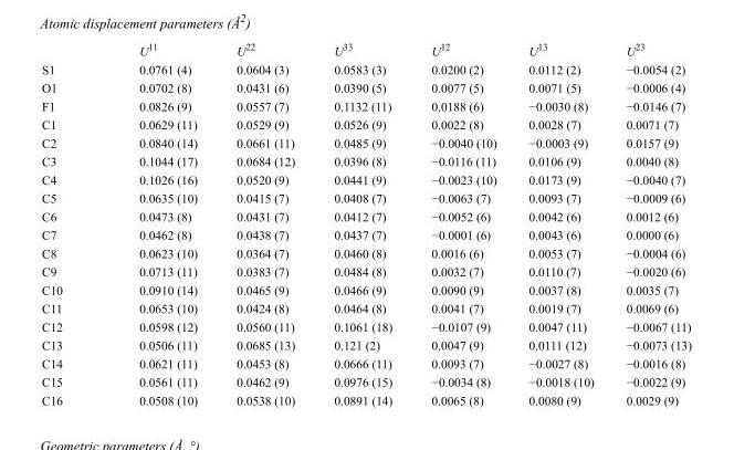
<table><thead><tr><td></td><td>U<sup>11</sup></td><td>U<sup>22</sup></td><td>U<sup>33</sup></td><td>U<sup>12</sup></td><td>U<sup>13</sup></td><td>U<sup>23</sup></td></tr></thead><tbody><tr><td>S1</td><td>0.0761 (4)</td><td>0.0604 (3)</td><td>0.0583 (3)</td><td>0.0200 (2)</td><td>0.0112 (2)</td><td>−0.0054 (2)</td></tr><tr><td>O1</td><td>0.0702 (8)</td><td>0.0431 (6)</td><td>0.0390 (5)</td><td>0.0077 (5)</td><td>0.0071 (5)</td><td>−0.0006 (4)</td></tr><tr><td>F1</td><td>0.0826 (9)</td><td>0.0557 (7)</td><td>0.1132 (11)</td><td>0.0188 (6)</td><td>−0.0030 (8)</td><td>−0.0146 (7)</td></tr><tr><td>C1</td><td>0.0629 (11)</td><td>0.0529 (9)</td><td>0.0526 (9)</td><td>0.0022 (8)</td><td>0.0028 (7)</td><td>0.0071 (7)</td></tr><tr><td>C2</td><td>0.0840 (14)</td><td>0.0661 (11)</td><td>0.0485 (9)</td><td>−0.0040 (10)</td><td>−0.0003 (9)</td><td>0.0157 (9)</td></tr><tr><td>C3</td><td>0.1044 (17)</td><td>0.0684 (12)</td><td>0.0396 (8)</td><td>−0.0116 (11)</td><td>0.0106 (9)</td><td>0.0040 (8)</td></tr><tr><td>C4</td><td>0.1026 (16)</td><td>0.0520 (9)</td><td>0.0441 (9)</td><td>−0.0023 (10)</td><td>0.0173 (9)</td><td>−0.0040 (7)</td></tr><tr><td>C5</td><td>0.0635 (10)</td><td>0.0415 (7)</td><td>0.0408 (7)</td><td>−0.0063 (7)</td><td>0.0093 (7)</td><td>−0.0009 (6)</td></tr><tr><td>C6</td><td>0.0473 (8)</td><td>0.0431 (7)</td><td>0.0412 (7)</td><td>−0.0052 (6)</td><td>0.0042 (6)</td><td>0.0012 (6)</td></tr><tr><td>C7</td><td>0.0462 (8)</td><td>0.0438 (7)</td><td>0.0437 (7)</td><td>−0.0001 (6)</td><td>0.0043 (6)</td><td>0.0000 (6)</td></tr><tr><td>C8</td><td>0.0623 (10)</td><td>0.0364 (7)</td><td>0.0460 (8)</td><td>0.0016 (6)</td><td>0.0053 (7)</td><td>−0.0004 (6)</td></tr><tr><td>C9</td><td>0.0713 (11)</td><td>0.0383 (7)</td><td>0.0484 (8)</td><td>0.0032 (7)</td><td>0.0110 (7)</td><td>−0.0020 (6)</td></tr><tr><td>C10</td><td>0.0910 (14)</td><td>0.0465 (9)</td><td>0.0466 (9)</td><td>0.0090 (9)</td><td>0.0037 (8)</td><td>0.0035 (7)</td></tr><tr><td>C11</td><td>0.0653 (10)</td><td>0.0424 (8)</td><td>0.0464 (8)</td><td>0.0041 (7)</td><td>0.0019 (7)</td><td>0.0069 (6)</td></tr><tr><td>C12</td><td>0.0598 (12)</td><td>0.0560 (11)</td><td>0.1061 (18)</td><td>−0.0107 (9)</td><td>0.0047 (11)</td><td>−0.0067 (11)</td></tr><tr><td>C13</td><td>0.0506 (11)</td><td>0.0685 (13)</td><td>0.121 (2)</td><td>0.0047 (9)</td><td>0.0111 (12)</td><td>−0.0073 (13)</td></tr><tr><td>C14</td><td>0.0621 (11)</td><td>0.0453 (8)</td><td>0.0666 (11)</td><td>0.0093 (7)</td><td>−0.0027 (8)</td><td>−0.0016 (8)</td></tr><tr><td>C15</td><td>0.0561 (11)</td><td>0.0462 (9)</td><td>0.0976 (15)</td><td>−0.0034 (8)</td><td>−0.0018 (10)</td><td>−0.0022 (9)</td></tr><tr><td>C16</td><td>0.0508 (10)</td><td>0.0538 (10)</td><td>0.0891 (14)</td><td>0.0065 (8)</td><td>0.0080 (9)</td><td>0.0029 (9)</td></tr></tbody></table>